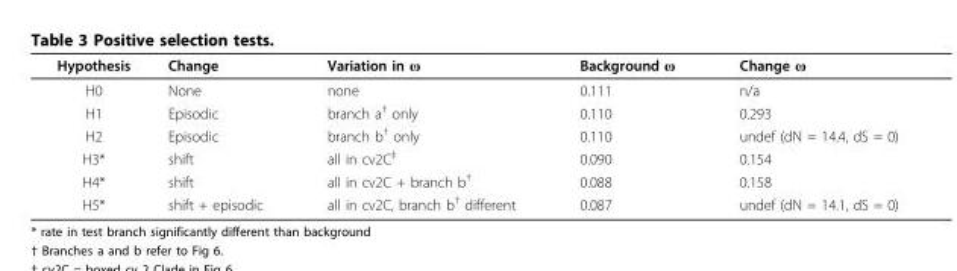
<table><thead><tr><td>Hypothesis</td><td>Change</td><td>Variation in ω</td><td>Background ω</td><td>Change ω</td></tr></thead><tbody><tr><td>H0</td><td>None</td><td>none</td><td>0.111</td><td>n/a</td></tr><tr><td>H1</td><td>Episodic</td><td>branch a<sup>†</sup> only</td><td>0.110</td><td>0.293</td></tr><tr><td>H2</td><td>Episodic</td><td>branch b<sup>†</sup> only</td><td>0.110</td><td>undef (dN = 14.4, dS = 0)</td></tr><tr><td>H3*</td><td>shift</td><td>all in cv2C<sup>‡</sup></td><td>0.090</td><td>0.154</td></tr><tr><td>H4*</td><td>shift</td><td>all in cv2C + branch b<sup>†</sup></td><td>0.088</td><td>0.158</td></tr><tr><td>H5*</td><td>shift + episodic</td><td>all in cv2C, branch b<sup>†</sup> different</td><td>0.087</td><td>undef (dN = 14.1, dS = 0)</td></tr></tbody></table>